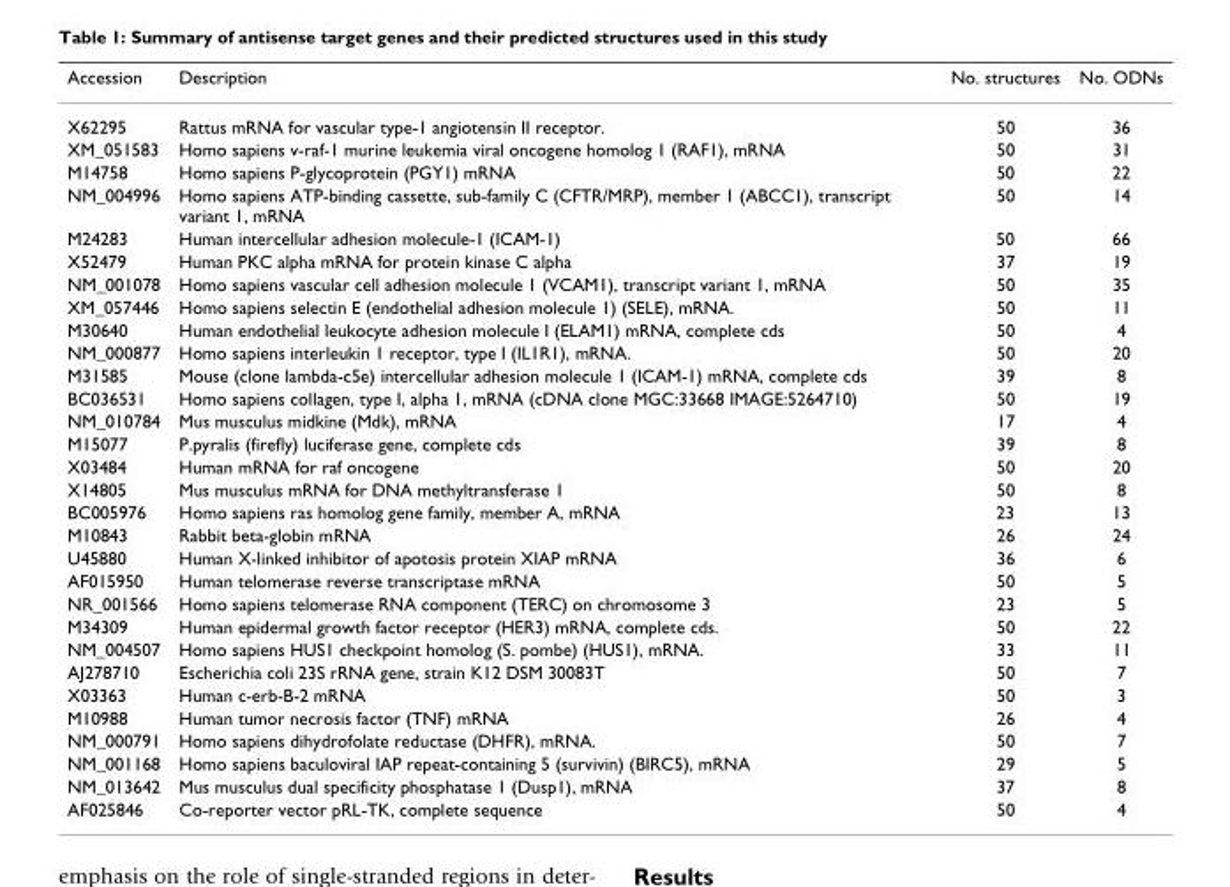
<table><thead><tr><td>Accession</td><td>Description</td><td>No. structures</td><td>No. ODNs</td></tr></thead><tbody><tr><td>X62295</td><td>Rattus mRNA for vascular type-1 angiotensin II receptor.</td><td>50</td><td>36</td></tr><tr><td>XM_051583</td><td>Homo sapiens v-raf-1 murine leukemia viral oncogene homolog 1 (RAF1), mRNA</td><td>50</td><td>31</td></tr><tr><td>M14758</td><td>Homo sapiens P-glycoprotein (PGY1) mRNA</td><td>50</td><td>22</td></tr><tr><td>NM_004996</td><td>Homo sapiens ATP-binding cassette, sub-family C (CFTR/MRP), member 1 (ABCC1), transcript variant 1, mRNA</td><td>50</td><td>14</td></tr><tr><td>M24283</td><td>Human intercellular adhesion molecule-1 (ICAM-1)</td><td>50</td><td>66</td></tr><tr><td>X52479</td><td>Human PKC alpha mRNA for protein kinase C alpha</td><td>37</td><td>19</td></tr><tr><td>NM_001078</td><td>Homo sapiens vascular cell adhesion molecule 1 (VCAM1), transcript variant 1, mRNA</td><td>50</td><td>35</td></tr><tr><td>XM_057446</td><td>Homo sapiens selectin E (endothelial adhesion molecule 1) (SELE), mRNA.</td><td>50</td><td>11</td></tr><tr><td>M30640</td><td>Human endothelial leukocyte adhesion molecule I (ELAM1) mRNA, complete cds</td><td>50</td><td>4</td></tr><tr><td>NM_000877</td><td>Homo sapiens interleukin 1 receptor, type I (IL1R1), mRNA.</td><td>50</td><td>20</td></tr><tr><td>M31585</td><td>Mouse (clone lambda-c5e) intercellular adhesion molecule 1 (ICAM-1) mRNA, complete cds</td><td>39</td><td>8</td></tr><tr><td>BC036531</td><td>Homo sapiens collagen, type I, alpha 1, mRNA (cDNA clone MGC:33668 IMAGE:5264710)</td><td>50</td><td>19</td></tr><tr><td>NM_010784</td><td>Mus musculus midkine (Mdk), mRNA</td><td>17</td><td>4</td></tr><tr><td>M15077</td><td>P.pyralis (firefly) luciferase gene, complete cds</td><td>39</td><td>8</td></tr><tr><td>X03484</td><td>Human mRNA for raf oncogene</td><td>50</td><td>20</td></tr><tr><td>X14805</td><td>Mus musculus mRNA for DNA methyltransferase 1</td><td>50</td><td>8</td></tr><tr><td>BC005976</td><td>Homo sapiens ras homolog gene family, member A, mRNA</td><td>23</td><td>13</td></tr><tr><td>M10843</td><td>Rabbit beta-globin mRNA</td><td>26</td><td>24</td></tr><tr><td>U45880</td><td>Human X-linked inhibitor of apotosis protein XIAP mRNA</td><td>36</td><td>6</td></tr><tr><td>AF015950</td><td>Human telomerase reverse transcriptase mRNA</td><td>50</td><td>5</td></tr><tr><td>NR_001566</td><td>Homo sapiens telomerase RNA component (TERC) on chromosome 3</td><td>23</td><td>5</td></tr><tr><td>M34309</td><td>Human epidermal growth factor receptor (HER3) mRNA, complete cds.</td><td>50</td><td>22</td></tr><tr><td>NM_004507</td><td>Homo sapiens HUS1 checkpoint homolog (S. pombe) (HUS1), mRNA.</td><td>33</td><td>11</td></tr><tr><td>AJ278710</td><td>Escherichia coli 23S rRNA gene, strain K12 DSM 30083T</td><td>50</td><td>7</td></tr><tr><td>X03363</td><td>Human c-erb-B-2 mRNA</td><td>50</td><td>3</td></tr><tr><td>M10988</td><td>Human tumor necrosis factor (TNF) mRNA</td><td>26</td><td>4</td></tr><tr><td>NM_000791</td><td>Homo sapiens dihydrofolate reductase (DHFR), mRNA.</td><td>50</td><td>7</td></tr><tr><td>NM_001168</td><td>Homo sapiens baculoviral IAP repeat-containing 5 (survivin) (BIRC5), mRNA</td><td>29</td><td>5</td></tr><tr><td>NM_013642</td><td>Mus musculus dual specificity phosphatase 1 (Dusp1), mRNA</td><td>37</td><td>8</td></tr><tr><td>AF025846</td><td>Co-reporter vector pRL-TK, complete sequence</td><td>50</td><td>4</td></tr></tbody></table>